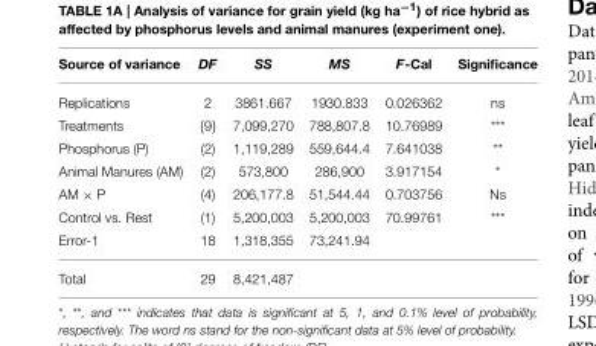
<table><thead><tr><td>Source of variance</td><td>DF</td><td>SS</td><td>MS</td><td>F-Cal</td><td>Significance</td></tr></thead><tbody><tr><td>Replications</td><td>2</td><td>3861.667</td><td>1930.833</td><td>0.026362</td><td>ns</td></tr><tr><td>Treatments</td><td>{9}</td><td>7,099,270</td><td>788,807.8</td><td>10.76989</td><td>***</td></tr><tr><td>Phosphorus (P)</td><td>(2)</td><td>1,119,289</td><td>559,644.4</td><td>7.641038</td><td>**</td></tr><tr><td>Animal Manures (AM)</td><td>(2)</td><td>573,800</td><td>286,900</td><td>3.917154</td><td>*</td></tr><tr><td>AM × P</td><td>(4)</td><td>206,177.8</td><td>51,544.44</td><td>0.703756</td><td>Ns</td></tr><tr><td>Control vs. Rest</td><td>(1)</td><td>5,200,003</td><td>5,200,003</td><td>70.99761</td><td>***</td></tr><tr><td>Error-1</td><td>18</td><td>1,318,355</td><td>73,241.94</td><td></td><td></td></tr><tr><td>Total</td><td>29</td><td>8,421,487</td><td></td><td></td><td></td></tr></tbody></table>